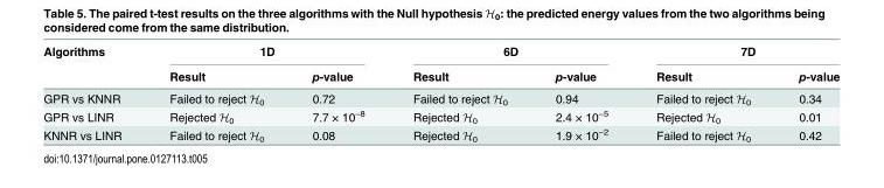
<table><thead><tr><td rowspan="2">Algorithms</td><td colspan="2">1D</td><td colspan="2">6D</td><td colspan="2">7D</td></tr><tr><td>Result</td><td>p-value</td><td>Result</td><td>p-value</td><td>Result</td><td>p-value</td></tr></thead><tbody><tr><td>GPR vs KNNR</td><td>Failed to reject H<sub>0</sub></td><td>0.72</td><td>Failed to reject H<sub>0</sub></td><td>0.94</td><td>Failed to reject H<sub>0</sub></td><td>0.34</td></tr><tr><td>GPR vs LINR</td><td>Rejected H<sub>0</sub></td><td>7.7 × 10<sup>−8</sup></td><td>Rejected H<sub>0</sub></td><td>2.4 × 10<sup>−5</sup></td><td>Rejected H<sub>0</sub></td><td>0.01</td></tr><tr><td>KNNR vs LINR</td><td>Failed to reject H<sub>0</sub></td><td>0.08</td><td>Rejected H<sub>0</sub></td><td>1.9 × 10<sup>−2</sup></td><td>Failed to reject H<sub>0</sub></td><td>0.42</td></tr></tbody></table>